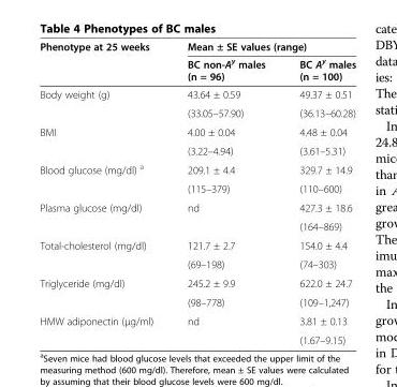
<table><thead><tr><td rowspan="2">Phenotype at 25 weeks</td><td colspan="2">Mean ± SE values (range)</td></tr><tr><td>BC non-A<sup>y</sup> males (n = 96)</td><td>BC A<sup>y</sup> males (n = 100)</td></tr></thead><tbody><tr><td rowspan="2">Body weight (g)</td><td>43.64 ± 0.59</td><td>49.37 ± 0.51</td></tr><tr><td>(33.05–57.90)</td><td>(36.13–60.28)</td></tr><tr><td rowspan="2">BMI</td><td>4.00 ± 0.04</td><td>4.48 ± 0.04</td></tr><tr><td>(3.22–4.94)</td><td>(3.61–5.31)</td></tr><tr><td rowspan="2">Blood glucose (mg/dl) <sup>a</sup></td><td>209.1 ± 4.4</td><td>329.7 ± 14.9</td></tr><tr><td>(115–379)</td><td>(110–600)</td></tr><tr><td rowspan="2">Plasma glucose (mg/dl)</td><td>nd</td><td>427.3 ± 18.6</td></tr><tr><td></td><td>(164–869)</td></tr><tr><td rowspan="2">Total-cholesterol (mg/dl)</td><td>121.7 ± 2.7</td><td>154.0 ± 4.4</td></tr><tr><td>(69–198)</td><td>(74–303)</td></tr><tr><td rowspan="2">Triglyceride (mg/dl)</td><td>245.2 ± 9.9</td><td>622.0 ± 24.7</td></tr><tr><td>(98–778)</td><td>(109–1,247)</td></tr><tr><td rowspan="2">HMW adiponectin (μg/ml)</td><td>nd</td><td>3.81 ± 0.13</td></tr><tr><td></td><td>(1.67–9.15)</td></tr></tbody></table>